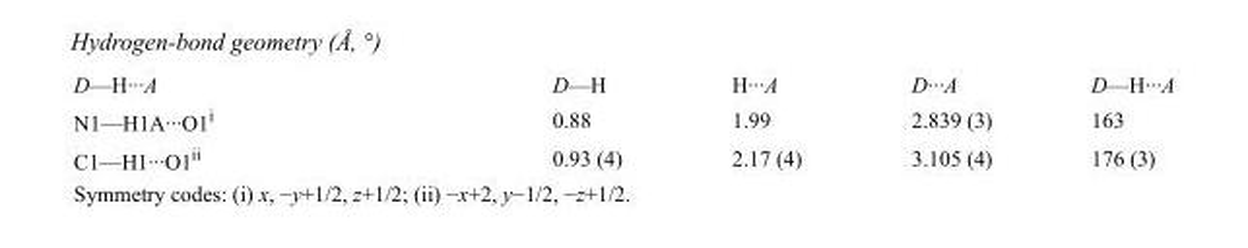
<table><tbody><tr><td>D—H···A</td><td>D—H</td><td>H···A</td><td>D···A</td><td>D—H···A</td></tr><tr><td>N1—H1A···O1<sup>i</sup></td><td>0.88</td><td>1.99</td><td>2.839 (3)</td><td>163</td></tr><tr><td>C1—H1···O1<sup>ii</sup></td><td>0.93 (4)</td><td>2.17 (4)</td><td>3.105 (4)</td><td>176 (3)</td></tr></tbody></table>